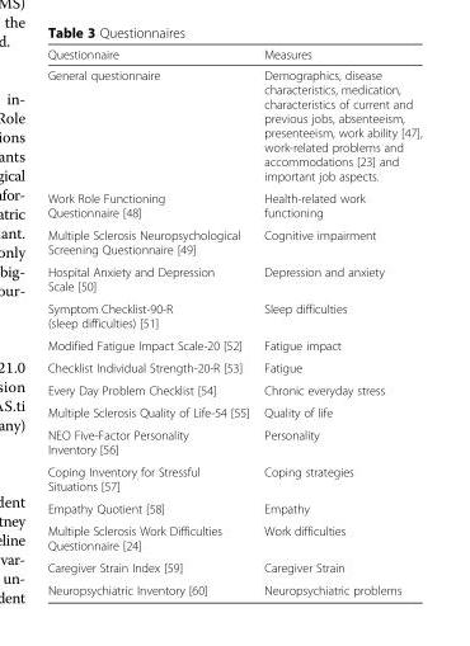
<table><thead><tr><td>Questionnaire</td><td>Measures</td></tr></thead><tbody><tr><td>General questionnaire</td><td>Demographics, disease characteristics, medication, characteristics of current and previous jobs, absenteeism, presenteeism, work ability [47], work-related problems and accommodations [23] and important job aspects.</td></tr><tr><td>Work Role Functioning Questionnaire [48]</td><td>Health-related work functioning</td></tr><tr><td>Multiple Sclerosis Neuropsychological Screening Questionnaire [49]</td><td>Cognitive impairment</td></tr><tr><td>Hospital Anxiety and Depression Scale [50]</td><td>Depression and anxiety</td></tr><tr><td>Symptom Checklist-90-R (sleep difficulties) [51]</td><td>Sleep difficulties</td></tr><tr><td>Modified Fatigue Impact Scale-20 [52]</td><td>Fatigue impact</td></tr><tr><td>Checklist Individual Strength-20-R [53]</td><td>Fatigue</td></tr><tr><td>Every Day Problem Checklist [54]</td><td>Chronic everyday stress</td></tr><tr><td>Multiple Sclerosis Quality of Life-54 [55]</td><td>Quality of life</td></tr><tr><td>NEO Five-Factor Personality Inventory [56]</td><td>Personality</td></tr><tr><td>Coping Inventory for Stressful Situations [57]</td><td>Coping strategies</td></tr><tr><td>Empathy Quotient [58]</td><td>Empathy</td></tr><tr><td>Multiple Sclerosis Work Difficulties Questionnaire [24]</td><td>Work difficulties</td></tr><tr><td>Caregiver Strain Index [59]</td><td>Caregiver Strain</td></tr><tr><td>Neuropsychiatric Inventory [60]</td><td>Neuropsychiatric problems</td></tr></tbody></table>